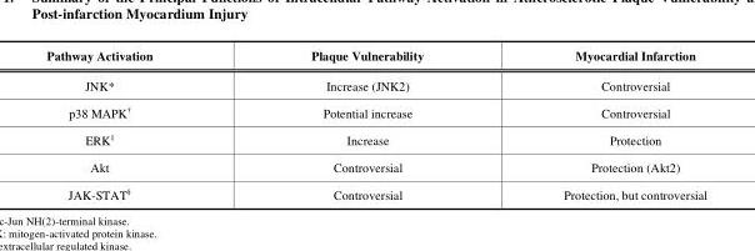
<table><thead><tr><td>Pathway Activation</td><td>Plaque Vulnerability</td><td>Myocardial Infarction</td></tr></thead><tbody><tr><td>JNK*</td><td>Increase (JNK2)</td><td>Controversial</td></tr><tr><td>p38 MAPK†</td><td>Potential increase</td><td>Controversial</td></tr><tr><td>ERK‡</td><td>Increase</td><td>Protection</td></tr><tr><td>Akt</td><td>Controversial</td><td>Protection (Akt2)</td></tr><tr><td>JAK-STAT§</td><td>Controversial</td><td>Protection, but controversial</td></tr></tbody></table>